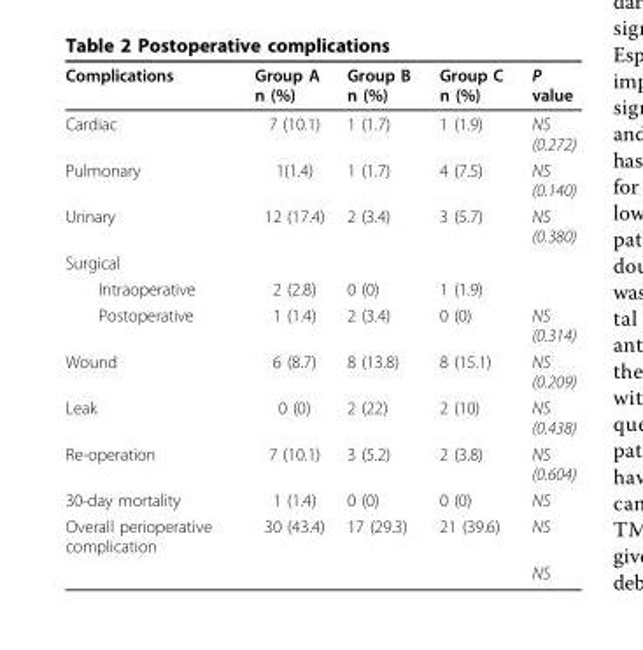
<table><thead><tr><td>Complications</td><td>Group A n (%)</td><td>Group B n (%)</td><td>Group C n (%)</td><td>P value</td></tr></thead><tbody><tr><td>Cardiac</td><td>7 (10.1)</td><td>1 (1.7)</td><td>1 (1.9)</td><td>NS (0.272)</td></tr><tr><td>Pulmonary</td><td>1(1.4)</td><td>1 (1.7)</td><td>4 (7.5)</td><td>NS (0.140)</td></tr><tr><td>Urinary</td><td>12 (17.4)</td><td>2 (3.4)</td><td>3 (5.7)</td><td>NS (0.380)</td></tr><tr><td colspan="5">Surgical</td></tr><tr><td>Intraoperative</td><td>2 (2.8)</td><td>0 (0)</td><td>1 (1.9)</td><td></td></tr><tr><td>Postoperative</td><td>1 (1.4)</td><td>2 (3.4)</td><td>0 (0)</td><td>NS (0.314)</td></tr><tr><td>Wound</td><td>6 (8.7)</td><td>8 (13.8)</td><td>8 (15.1)</td><td>NS (0.209)</td></tr><tr><td>Leak</td><td>0 (0)</td><td>2 (22)</td><td>2 (10)</td><td>NS (0.438)</td></tr><tr><td>Re-operation</td><td>7 (10.1)</td><td>3 (5.2)</td><td>2 (3.8)</td><td>NS (0.604)</td></tr><tr><td>30-day mortality</td><td>1 (1.4)</td><td>0 (0)</td><td>0 (0)</td><td>NS</td></tr><tr><td rowspan="2">Overall perioperative complication</td><td>30 (43.4)</td><td>17 (29.3)</td><td>21 (39.6)</td><td>NS</td></tr><tr><td></td><td></td><td></td><td>NS</td></tr></tbody></table>